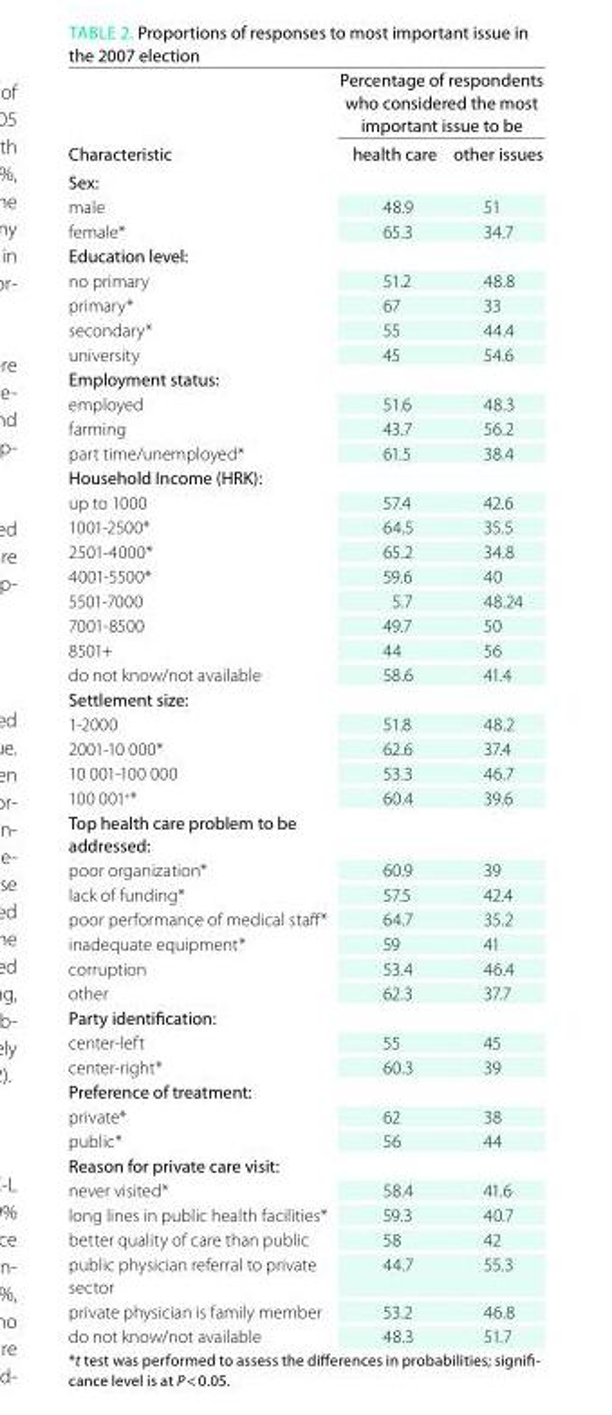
<table><thead><tr><td rowspan="2">Characteristic</td><td colspan="2">Percentage of respondents who considered the most important issue to be</td></tr><tr><td>health care</td><td>other issues</td></tr></thead><tbody><tr><td colspan="3">sex:</td></tr><tr><td>male</td><td>48.9</td><td>51</td></tr><tr><td>female*</td><td>65.3</td><td>34.7</td></tr><tr><td colspan="3">education level:</td></tr><tr><td>no primary</td><td>51.2</td><td>48.8</td></tr><tr><td>primary*</td><td>67</td><td>33</td></tr><tr><td>secondary*</td><td>55</td><td>44.4</td></tr><tr><td>university</td><td>45</td><td>54.6</td></tr><tr><td colspan="3">employment status:</td></tr><tr><td>employed</td><td>51.6</td><td>48.3</td></tr><tr><td>farming</td><td>43.7</td><td>56.2</td></tr><tr><td>part time/unemployed*</td><td>61.5</td><td>38.4</td></tr><tr><td colspan="3">household Income (hRK):</td></tr><tr><td>up to 1000</td><td>57.4</td><td>42.6</td></tr><tr><td>1001-2500*</td><td>64.5</td><td>35.5</td></tr><tr><td>2501-4000*</td><td>65.2</td><td>34.8</td></tr><tr><td>4001-5500*</td><td>59.6</td><td>40</td></tr><tr><td>5501-7000</td><td>5.7</td><td>48.24</td></tr><tr><td>7001-8500</td><td>49.7</td><td>50</td></tr><tr><td>8501+</td><td>44</td><td>56</td></tr><tr><td>do not know/not available</td><td>58.6</td><td>41.4</td></tr><tr><td colspan="3">settlement size:</td></tr><tr><td>1-2000</td><td>51.8</td><td>48.2</td></tr><tr><td>2001-10 000*</td><td>62.6</td><td>37.4</td></tr><tr><td>10 001-100 000</td><td>53.3</td><td>46.7</td></tr><tr><td>100 001+*</td><td>60.4</td><td>39.6</td></tr><tr><td colspan="3">top health care problem to be addressed:</td></tr><tr><td>poor organization*</td><td>60.9</td><td>39</td></tr><tr><td>lack of funding*</td><td>57.5</td><td>42.4</td></tr><tr><td>poor performance of medical staff*</td><td>64.7</td><td>35.2</td></tr><tr><td>inadequate equipment*</td><td>59</td><td>41</td></tr><tr><td>corruption</td><td>53.4</td><td>46.4</td></tr><tr><td>other</td><td>62.3</td><td>37.7</td></tr><tr><td colspan="3">Party identification:</td></tr><tr><td>center-left</td><td>55</td><td>45</td></tr><tr><td>center-right*</td><td>60.3</td><td>39</td></tr><tr><td colspan="3">Preference of treatment:</td></tr><tr><td>private*</td><td>62</td><td>38</td></tr><tr><td>public*</td><td>56</td><td>44</td></tr><tr><td colspan="3">Reason for private care visit:</td></tr><tr><td>never visited*</td><td>58.4</td><td>41.6</td></tr><tr><td>long lines in public health facilities*</td><td>59.3</td><td>40.7</td></tr><tr><td>better quality of care than public</td><td>58</td><td>42</td></tr><tr><td>public physician referral to private sector</td><td>44.7</td><td>55.3</td></tr><tr><td>private physician is family member</td><td>53.2</td><td>46.8</td></tr><tr><td>do not know/not available</td><td>48.3</td><td>51.7</td></tr></tbody></table>